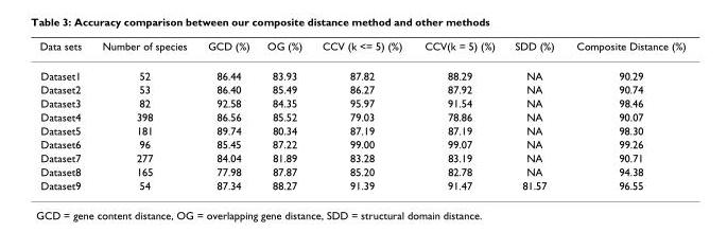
<table><thead><tr><td>Data sets</td><td>Number of species</td><td>GCD (%)</td><td>OG (%)</td><td>CCV (k &lt;= 5) (%)</td><td>CCV(k = 5) (%)</td><td>SDD (%)</td><td>Composite Distance (%)</td></tr></thead><tbody><tr><td>Dataset1</td><td>52</td><td>86.44</td><td>83.93</td><td>87.82</td><td>88.29</td><td>NA</td><td>90.29</td></tr><tr><td>Dataset2</td><td>53</td><td>86.40</td><td>85.49</td><td>86.27</td><td>87.92</td><td>NA</td><td>90.74</td></tr><tr><td>Dataset3</td><td>82</td><td>92.58</td><td>84.35</td><td>95.97</td><td>91.54</td><td>NA</td><td>98.46</td></tr><tr><td>Dataset4</td><td>398</td><td>86.56</td><td>85.52</td><td>79.03</td><td>78.86</td><td>NA</td><td>90.07</td></tr><tr><td>Dataset5</td><td>181</td><td>89.74</td><td>80.34</td><td>87.19</td><td>87.19</td><td>NA</td><td>98.30</td></tr><tr><td>Dataset6</td><td>96</td><td>85.45</td><td>87.22</td><td>99.00</td><td>99.07</td><td>NA</td><td>99.26</td></tr><tr><td>Dataset7</td><td>277</td><td>84.04</td><td>81.89</td><td>83.28</td><td>83.19</td><td>NA</td><td>90.71</td></tr><tr><td>Dataset8</td><td>165</td><td>77.98</td><td>87.87</td><td>85.20</td><td>82.78</td><td>NA</td><td>94.38</td></tr><tr><td>Dataset9</td><td>54</td><td>87.34</td><td>88.27</td><td>91.39</td><td>91.47</td><td>81.57</td><td>96.55</td></tr></tbody></table>